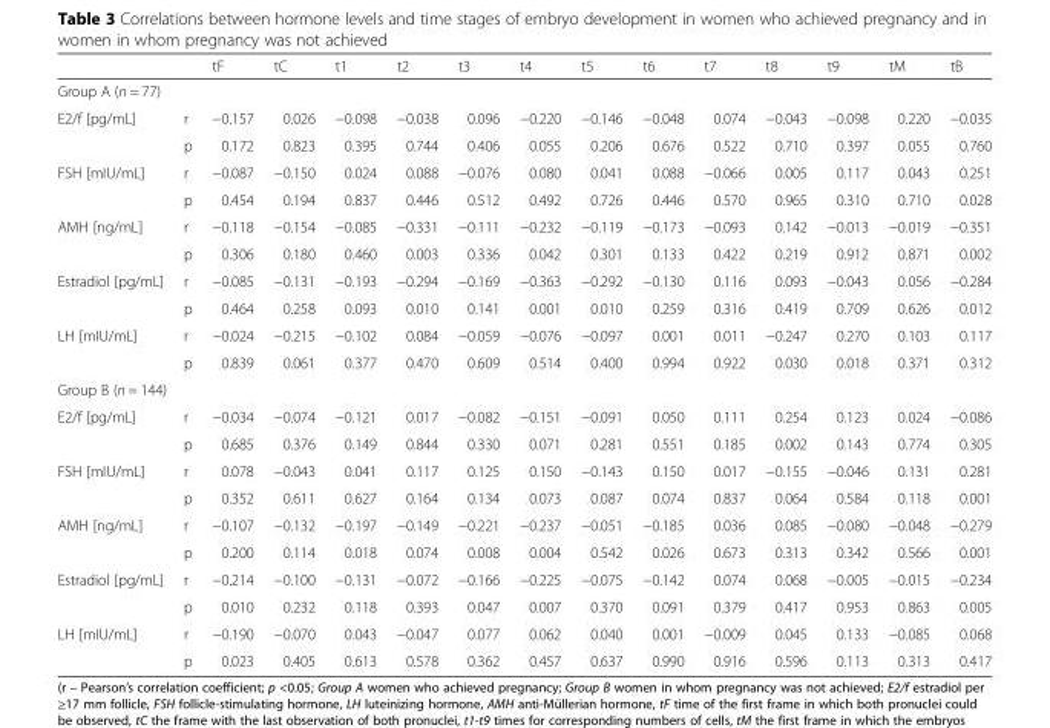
<table><thead><tr><td></td><td></td><td>tF</td><td>tC</td><td>t1</td><td>t2</td><td>t3</td><td>t4</td><td>t5</td><td>t6</td><td>t7</td><td>t8</td><td>t9</td><td>tM</td><td>tB</td></tr></thead><tbody><tr><td colspan="15">Group A (n = 77)</td></tr><tr><td rowspan="2">E2/f [pg/mL]</td><td>r</td><td>−0.157</td><td>0.026</td><td>−0.098</td><td>−0.038</td><td>0.096</td><td>−0.220</td><td>−0.146</td><td>−0.048</td><td>0.074</td><td>−0.043</td><td>−0.098</td><td>0.220</td><td>−0.035</td></tr><tr><td>p</td><td>0.172</td><td>0.823</td><td>0.395</td><td>0.744</td><td>0.406</td><td>0.055</td><td>0.206</td><td>0.676</td><td>0.522</td><td>0.710</td><td>0.397</td><td>0.055</td><td>0.760</td></tr><tr><td rowspan="2">FSH [mIU/mL]</td><td>r</td><td>−0.087</td><td>−0.150</td><td>0.024</td><td>0.088</td><td>−0.076</td><td>0.080</td><td>0.041</td><td>0.088</td><td>−0.066</td><td>0.005</td><td>0.117</td><td>0.043</td><td>0.251</td></tr><tr><td>p</td><td>0.454</td><td>0.194</td><td>0.837</td><td>0.446</td><td>0.512</td><td>0.492</td><td>0.726</td><td>0.446</td><td>0.570</td><td>0.965</td><td>0.310</td><td>0.710</td><td>0.028</td></tr><tr><td rowspan="2">AMH [ng/mL]</td><td>r</td><td>−0.118</td><td>−0.154</td><td>−0.085</td><td>−0.331</td><td>−0.111</td><td>−0.232</td><td>−0.119</td><td>−0.173</td><td>−0.093</td><td>0.142</td><td>−0.013</td><td>−0.019</td><td>−0.351</td></tr><tr><td>p</td><td>0.306</td><td>0.180</td><td>0.460</td><td>0.003</td><td>0.336</td><td>0.042</td><td>0.301</td><td>0.133</td><td>0.422</td><td>0.219</td><td>0.912</td><td>0.871</td><td>0.002</td></tr><tr><td rowspan="2">Estradiol [pg/mL]</td><td>r</td><td>−0.085</td><td>−0.131</td><td>−0.193</td><td>−0.294</td><td>−0.169</td><td>−0.363</td><td>−0.292</td><td>−0.130</td><td>0.116</td><td>0.093</td><td>−0.043</td><td>0.056</td><td>−0.284</td></tr><tr><td>p</td><td>0.464</td><td>0.258</td><td>0.093</td><td>0.010</td><td>0.141</td><td>0.001</td><td>0.010</td><td>0.259</td><td>0.316</td><td>0.419</td><td>0.709</td><td>0.626</td><td>0.012</td></tr><tr><td rowspan="2">LH [mIU/mL]</td><td>r</td><td>−0.024</td><td>−0.215</td><td>−0.102</td><td>0.084</td><td>−0.059</td><td>−0.076</td><td>−0.097</td><td>0.001</td><td>0.011</td><td>−0.247</td><td>0.270</td><td>0.103</td><td>0.117</td></tr><tr><td>p</td><td>0.839</td><td>0.061</td><td>0.377</td><td>0.470</td><td>0.609</td><td>0.514</td><td>0.400</td><td>0.994</td><td>0.922</td><td>0.030</td><td>0.018</td><td>0.371</td><td>0.312</td></tr><tr><td colspan="15">Group B (n = 144)</td></tr><tr><td rowspan="2">E2/f [pg/mL]</td><td>r</td><td>−0.034</td><td>−0.074</td><td>−0.121</td><td>0.017</td><td>−0.082</td><td>−0.151</td><td>−0.091</td><td>0.050</td><td>0.111</td><td>0.254</td><td>0.123</td><td>0.024</td><td>−0.086</td></tr><tr><td>p</td><td>0.685</td><td>0.376</td><td>0.149</td><td>0.844</td><td>0.330</td><td>0.071</td><td>0.281</td><td>0.551</td><td>0.185</td><td>0.002</td><td>0.143</td><td>0.774</td><td>0.305</td></tr><tr><td rowspan="2">FSH [mIU/mL]</td><td>r</td><td>0.078</td><td>−0.043</td><td>0.041</td><td>0.117</td><td>0.125</td><td>0.150</td><td>−0.143</td><td>0.150</td><td>0.017</td><td>−0.155</td><td>−0.046</td><td>0.131</td><td>0.281</td></tr><tr><td>p</td><td>0.352</td><td>0.611</td><td>0.627</td><td>0.164</td><td>0.134</td><td>0.073</td><td>0.087</td><td>0.074</td><td>0.837</td><td>0.064</td><td>0.584</td><td>0.118</td><td>0.001</td></tr><tr><td rowspan="2">AMH [ng/mL]</td><td>r</td><td>−0.107</td><td>−0.132</td><td>−0.197</td><td>−0.149</td><td>−0.221</td><td>−0.237</td><td>−0.051</td><td>−0.185</td><td>0.036</td><td>0.085</td><td>−0.080</td><td>−0.048</td><td>−0.279</td></tr><tr><td>p</td><td>0.200</td><td>0.114</td><td>0.018</td><td>0.074</td><td>0.008</td><td>0.004</td><td>0.542</td><td>0.026</td><td>0.673</td><td>0.313</td><td>0.342</td><td>0.566</td><td>0.001</td></tr><tr><td rowspan="2">Estradiol [pg/mL]</td><td>r</td><td>−0.214</td><td>−0.100</td><td>−0.131</td><td>−0.072</td><td>−0.166</td><td>−0.225</td><td>−0.075</td><td>−0.142</td><td>0.074</td><td>0.068</td><td>−0.005</td><td>−0.015</td><td>−0.234</td></tr><tr><td>p</td><td>0.010</td><td>0.232</td><td>0.118</td><td>0.393</td><td>0.047</td><td>0.007</td><td>0.370</td><td>0.091</td><td>0.379</td><td>0.417</td><td>0.953</td><td>0.863</td><td>0.005</td></tr><tr><td rowspan="2">LH [mIU/mL]</td><td>r</td><td>−0.190</td><td>−0.070</td><td>0.043</td><td>−0.047</td><td>0.077</td><td>0.062</td><td>0.040</td><td>0.001</td><td>−0.009</td><td>0.045</td><td>0.133</td><td>−0.085</td><td>0.068</td></tr><tr><td>p</td><td>0.023</td><td>0.405</td><td>0.613</td><td>0.578</td><td>0.362</td><td>0.457</td><td>0.637</td><td>0.990</td><td>0.916</td><td>0.596</td><td>0.113</td><td>0.313</td><td>0.417</td></tr></tbody></table>